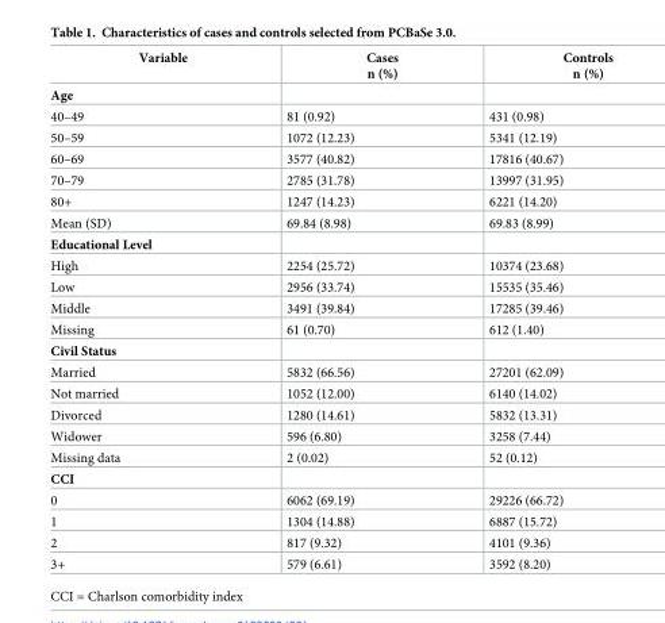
<table><thead><tr><td>Variable</td><td>Cases n (%)</td><td>Controls n (%)</td></tr></thead><tbody><tr><td colspan="3">Age</td></tr><tr><td>40–49</td><td>81 (0.92)</td><td>431 (0.98)</td></tr><tr><td>50–59</td><td>1072 (12.23)</td><td>5341 (12.19)</td></tr><tr><td>60–69</td><td>3577 (40.82)</td><td>17816 (40.67)</td></tr><tr><td>70–79</td><td>2785 (31.78)</td><td>13997 (31.95)</td></tr><tr><td>80+</td><td>1247 (14.23)</td><td>6221 (14.20)</td></tr><tr><td>Mean (SD)</td><td>69.84 (8.98)</td><td>69.83 (8.99)</td></tr><tr><td colspan="3">Educational Level</td></tr><tr><td>High</td><td>2254 (25.72)</td><td>10374 (23.68)</td></tr><tr><td>Low</td><td>2956 (33.74)</td><td>15535 (35.46)</td></tr><tr><td>Middle</td><td>3491 (39.84)</td><td>17285 (39.46)</td></tr><tr><td>Missing</td><td>61 (0.70)</td><td>612 (1.40)</td></tr><tr><td colspan="3">Civil Status</td></tr><tr><td>Married</td><td>5832 (66.56)</td><td>27201 (62.09)</td></tr><tr><td>Not married</td><td>1052 (12.00)</td><td>6140 (14.02)</td></tr><tr><td>Divorced</td><td>1280 (14.61)</td><td>5832 (13.31)</td></tr><tr><td>Widower</td><td>596 (6.80)</td><td>3258 (7.44)</td></tr><tr><td>Missing data</td><td>2 (0.02)</td><td>52 (0.12)</td></tr><tr><td colspan="3">CCI</td></tr><tr><td>0</td><td>6062 (69.19)</td><td>29226 (66.72)</td></tr><tr><td>1</td><td>1304 (14.88)</td><td>6887 (15.72)</td></tr><tr><td>2</td><td>817 (9.32)</td><td>4101 (9.36)</td></tr><tr><td>3+</td><td>579 (6.61)</td><td>3592 (8.20)</td></tr></tbody></table>